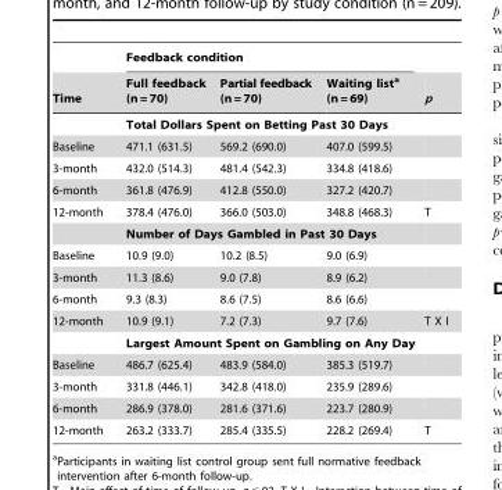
<table><thead><tr><td rowspan="2">Time</td><td colspan="3">Feedback condition</td><td rowspan="2">p</td></tr><tr><td>Full feedback (n = 70)</td><td>Partial feedback (n = 70)</td><td>Waiting list<sup>a</sup> (n = 69)</td></tr></thead><tbody><tr><td></td><td colspan="3">Total Dollars Spent on Betting Past 30 Days</td><td></td></tr><tr><td>Baseline</td><td>471.1 (631.5)</td><td>569.2 (690.0)</td><td>407.0 (599.5)</td><td></td></tr><tr><td>3-month</td><td>432.0 (514.3)</td><td>481.4 (542.3)</td><td>334.8 (418.6)</td><td></td></tr><tr><td>6-month</td><td>361.8 (476.9)</td><td>412.8 (550.0)</td><td>327.2 (420.7)</td><td></td></tr><tr><td rowspan="2">12-month</td><td>378.4 (476.0)</td><td>366.0 (503.0)</td><td>348.8 (468.3)</td><td>T</td></tr><tr><td colspan="3">Number of Days Gambled in Past 30 Days</td><td></td></tr><tr><td>Baseline</td><td>10.9 (9.0)</td><td>10.2 (8.5)</td><td>9.0 (6.9)</td><td></td></tr><tr><td>3-month</td><td>11.3 (8.6)</td><td>9.0 (7.8)</td><td>8.9 (6.2)</td><td></td></tr><tr><td>6-month</td><td>9.3 (8.3)</td><td>8.6 (7.5)</td><td>8.6 (6.6)</td><td></td></tr><tr><td rowspan="2">12-month</td><td>10.9 (9.1)</td><td>7.2 (7.3)</td><td>9.7 (7.6)</td><td>T X I</td></tr><tr><td colspan="3">Largest Amount Spent on Gambling on Any Day</td><td></td></tr><tr><td>Baseline</td><td>486.7 (625.4)</td><td>483.9 (584.0)</td><td>385.3 (519.7)</td><td></td></tr><tr><td>3-month</td><td>331.8 (446.1)</td><td>342.8 (418.0)</td><td>235.9 (289.6)</td><td></td></tr><tr><td>6-month</td><td>286.9 (378.0)</td><td>281.6 (371.6)</td><td>223.7 (280.9)</td><td></td></tr><tr><td>12-month</td><td>263.2 (333.7)</td><td>285.4 (335.5)</td><td>228.2 (269.4)</td><td>T</td></tr></tbody></table>